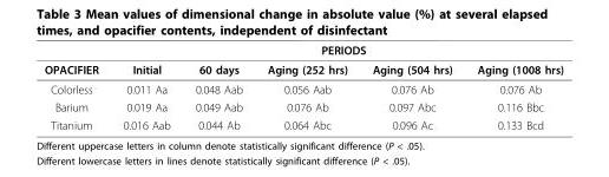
<table><thead><tr><td rowspan="2">OPACIFIER</td><td colspan="5">PERIODS</td></tr><tr><td>Initial</td><td>60 days</td><td>Aging (252 hrs)</td><td>Aging (504 hrs)</td><td>Aging (1008 hrs)</td></tr></thead><tbody><tr><td>Colorless</td><td>0.011 Aa</td><td>0.048 Aab</td><td>0.056 Aab</td><td>0.076 Ab</td><td>0.076 Ab</td></tr><tr><td>Barium</td><td>0.019 Aa</td><td>0.049 Aab</td><td>0.076 Ab</td><td>0.097 Abc</td><td>0.116 Bbc</td></tr><tr><td>Titanium</td><td>0.016 Aab</td><td>0.044 Ab</td><td>0.064 Abc</td><td>0.096 Ac</td><td>0.133 Bcd</td></tr></tbody></table>